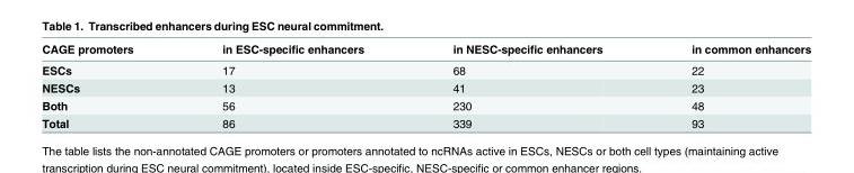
<table><thead><tr><td>CAGE promoters</td><td>in ESC-specific enhancers</td><td>in NESC-specific enhancers</td><td>in common enhancers</td></tr></thead><tbody><tr><td>ESCs</td><td>17</td><td>68</td><td>22</td></tr><tr><td>NESCs</td><td>13</td><td>41</td><td>23</td></tr><tr><td>Both</td><td>56</td><td>230</td><td>48</td></tr><tr><td>Total</td><td>86</td><td>339</td><td>93</td></tr></tbody></table>